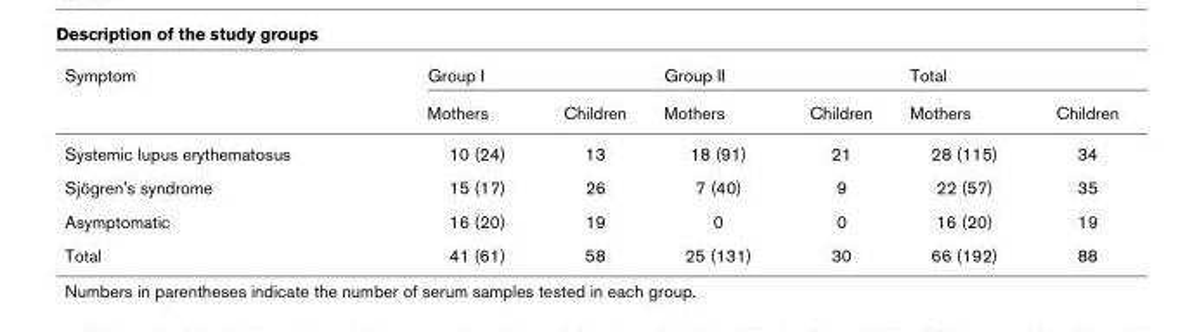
<table><thead><tr><td rowspan="2">Symptom</td><td colspan="2">Group I</td><td colspan="2">Group II</td><td colspan="2">Total</td></tr><tr><td>Mothers</td><td>Children</td><td>Mothers</td><td>Children</td><td>Mothers</td><td>Children</td></tr></thead><tbody><tr><td>Systemic lupus erythematosus</td><td>10 (24)</td><td>13</td><td>18 (91)</td><td>21</td><td>28 (115)</td><td>34</td></tr><tr><td>Sjögren&#x27;s syndrome</td><td>15 (17)</td><td>26</td><td>7 (40)</td><td>9</td><td>22 (57)</td><td>35</td></tr><tr><td>Asymptomatic</td><td>16 (20)</td><td>19</td><td>0</td><td>0</td><td>16 (20)</td><td>19</td></tr><tr><td>Total</td><td>41 (61)</td><td>58</td><td>25 (131)</td><td>30</td><td>66 (192)</td><td>88</td></tr></tbody></table>